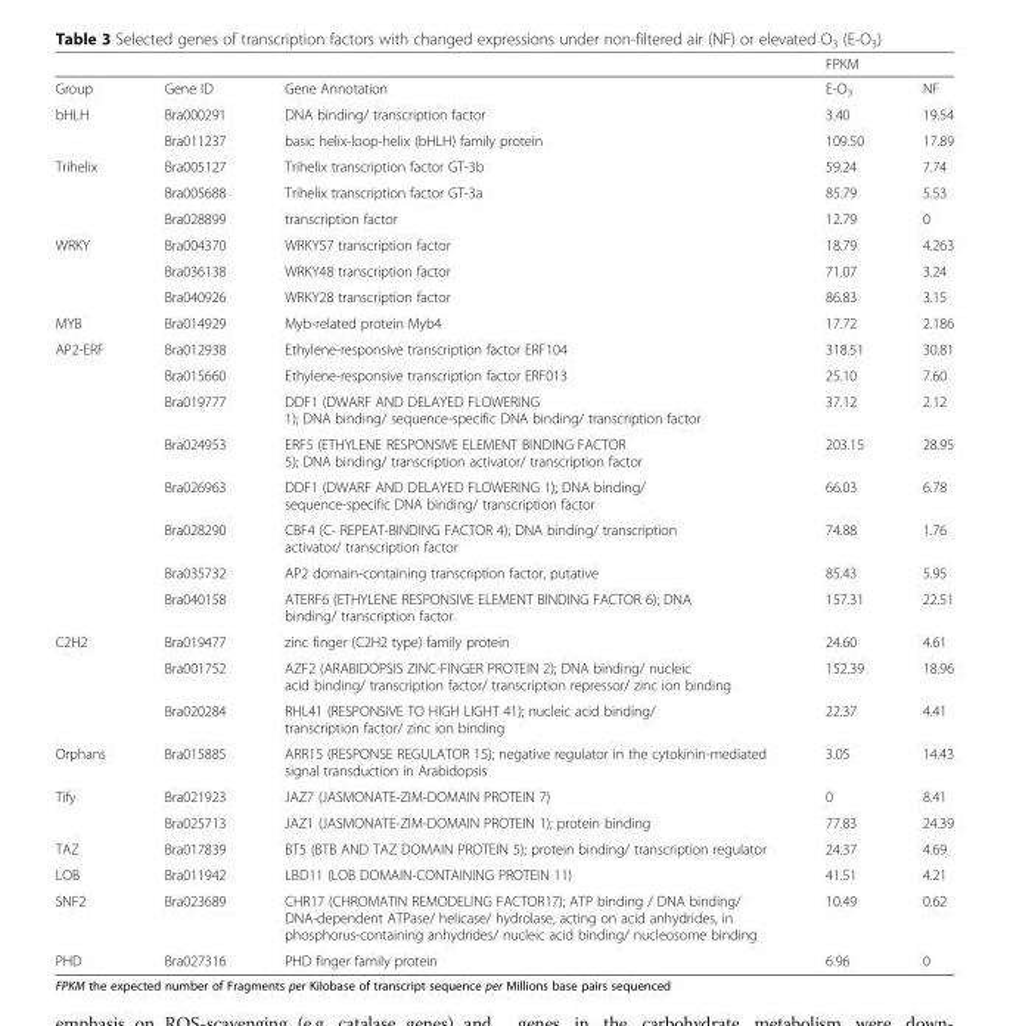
<table><thead><tr><td></td><td></td><td></td><td>FPKM</td><td></td></tr></thead><tbody><tr><td>Group</td><td>Gene ID</td><td>Gene Annotation</td><td>E-O<sub>3</sub></td><td>NF</td></tr><tr><td rowspan="2">bHLH</td><td>Bra000291</td><td>DNA binding/ transcription factor</td><td>3.40</td><td>19.54</td></tr><tr><td>Bra011237</td><td>basic helix-loop-helix (bHLH) family protein</td><td>109.50</td><td>17.89</td></tr><tr><td rowspan="3">Trihelix</td><td>Bra005127</td><td>Trihelix transcription factor GT-3b</td><td>59.24</td><td>7.74</td></tr><tr><td>Bra005688</td><td>Trihelix transcription factor GT-3a</td><td>85.79</td><td>5.53</td></tr><tr><td>Bra028899</td><td>transcription factor</td><td>12.79</td><td>0</td></tr><tr><td rowspan="3">WRKY</td><td>Bra004370</td><td>WRKY57 transcription factor</td><td>18.79</td><td>4.263</td></tr><tr><td>Bra036138</td><td>WRKY48 transcription factor</td><td>71.07</td><td>3.24</td></tr><tr><td>Bra040926</td><td>WRKY28 transcription factor</td><td>86.83</td><td>3.15</td></tr><tr><td>MYB</td><td>Bra014929</td><td>Myb-related protein Myb4</td><td>17.72</td><td>2.186</td></tr><tr><td rowspan="8">AP2-ERF</td><td>Bra012938</td><td>Ethylene-responsive transcription factor ERF104</td><td>318.51</td><td>30.81</td></tr><tr><td>Bra015660</td><td>Ethylene-responsive transcription factor ERF013</td><td>25.10</td><td>7.60</td></tr><tr><td>Bra019777</td><td>DDF1 (DWARF AND DELAYED FLOWERING 1); DNA binding/ sequence-specific DNA binding/ transcription factor</td><td>37.12</td><td>2.12</td></tr><tr><td>Bra024953</td><td>ERF5 (ETHYLENE RESPONSIVE ELEMENT BINDING FACTOR 5); DNA binding/ transcription activator/ transcription factor</td><td>203.15</td><td>28.95</td></tr><tr><td>Bra026963</td><td>DDF1 (DWARF AND DELAYED FLOWERING 1); DNA binding/ sequence-specific DNA binding/ transcription factor</td><td>66.03</td><td>6.78</td></tr><tr><td>Bra028290</td><td>CBF4 (C- REPEAT-BINDING FACTOR 4); DNA binding/ transcription activator/ transcription factor</td><td>74.88</td><td>1.76</td></tr><tr><td>Bra035732</td><td>AP2 domain-containing transcription factor, putative</td><td>85.43</td><td>5.95</td></tr><tr><td>Bra040158</td><td>ATERF6 (ETHYLENE RESPONSIVE ELEMENT BINDING FACTOR 6); DNA binding/ transcription factor</td><td>157.31</td><td>22.51</td></tr><tr><td rowspan="3">C2H2</td><td>Bra019477</td><td>zinc finger (C2H2 type) family protein</td><td>24.60</td><td>4.61</td></tr><tr><td>Bra001752</td><td>AZF2 (ARABIDOPSIS ZINC-FINGER PROTEIN 2); DNA binding/ nucleic acid binding/ transcription factor/ transcription repressor/ zinc ion binding</td><td>152.39</td><td>18.96</td></tr><tr><td>Bra020284</td><td>RHL41 (RESPONSIVE TO HIGH LIGHT 41); nucleic acid binding/ transcription factor/ zinc ion binding</td><td>22.37</td><td>4.41</td></tr><tr><td>Orphans</td><td>Bra015885</td><td>ARR15 (RESPONSE REGULATOR 15); negative regulator in the cytokinin-mediated signal transduction in Arabidopsis</td><td>3.05</td><td>14.43</td></tr><tr><td rowspan="2">Tify</td><td>Bra021923</td><td>JAZ7 (JASMONATE-ZIM-DOMAIN PROTEIN 7)</td><td>0</td><td>8.41</td></tr><tr><td>Bra025713</td><td>JAZ1 (JASMONATE-ZIM-DOMAIN PROTEIN 1); protein binding</td><td>77.83</td><td>24.39</td></tr><tr><td>TAZ</td><td>Bra017839</td><td>BT5 (BTB AND TAZ DOMAIN PROTEIN 5); protein binding/ transcription regulator</td><td>24.37</td><td>4.69</td></tr><tr><td>LOB</td><td>Bra011942</td><td>LBD11 (LOB DOMAIN-CONTAINING PROTEIN 11)</td><td>41.51</td><td>4.21</td></tr><tr><td>SNF2</td><td>Bra023689</td><td>CHR17 (CHROMATIN REMODELING FACTOR17); ATP binding / DNA binding/ DNA-dependent ATPase/ helicase/ hydrolase, acting on acid anhydrides, in phosphorus-containing anhydrides/ nucleic acid binding/ nucleosome binding</td><td>10.49</td><td>0.62</td></tr><tr><td>PHD</td><td>Bra027316</td><td>PHD finger family protein</td><td>6.96</td><td>0</td></tr></tbody></table>